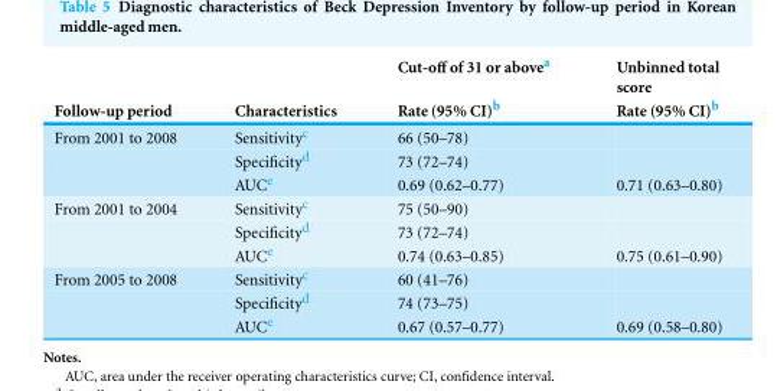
<table><thead><tr><td rowspan="2">Follow-up period</td><td rowspan="2">Characteristics</td><td rowspan="2">Cut-off of 31 or above<sup>a</sup> Rate (95% CI)<sup>b</sup></td><td rowspan="2">Unbinned total score Rate (95% CI)<sup>b</sup></td></tr><tr></tr></thead><tbody><tr><td rowspan="3">From 2001 to 2008</td><td>Sensitivity<sup>c</sup></td><td>66 (50–78)</td><td></td></tr><tr><td>Specificity<sup>d</sup></td><td>73 (72–74)</td><td></td></tr><tr><td>AUC<sup>e</sup></td><td>0.69 (0.62–0.77)</td><td>0.71 (0.63–0.80)</td></tr><tr><td rowspan="3">From 2001 to 2004</td><td>Sensitivity<sup>c</sup></td><td>75 (50–90)</td><td></td></tr><tr><td>Specificity<sup>d</sup></td><td>73 (72–74)</td><td></td></tr><tr><td>AUC<sup>e</sup></td><td>0.74 (0.63–0.85)</td><td>0.75 (0.61–0.90)</td></tr><tr><td rowspan="3">From 2005 to 2008</td><td>Sensitivity<sup>c</sup></td><td>60 (41–76)</td><td></td></tr><tr><td>Specificity<sup>d</sup></td><td>74 (73–75)</td><td></td></tr><tr><td>AUC<sup>e</sup></td><td>0.67 (0.57–0.77)</td><td>0.69 (0.58–0.80)</td></tr></tbody></table>